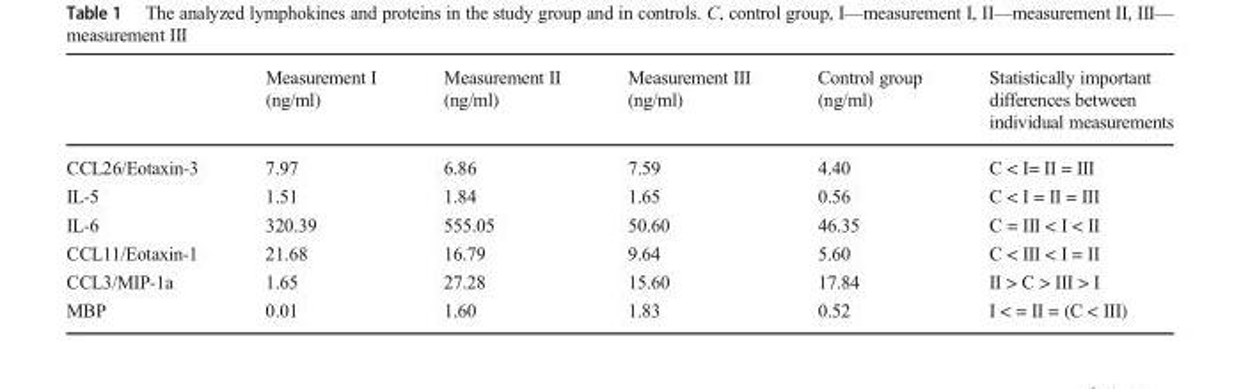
<table><thead><tr><td></td><td>Measurement I (ng/ml)</td><td>Measurement II (ng/ml)</td><td>Measurement III (ng/ml)</td><td>Control group (ng/ml)</td><td>Statistically important differences between individual measurements</td></tr></thead><tbody><tr><td>CCL26/Eotaxin-3</td><td>7.97</td><td>6.86</td><td>7.59</td><td>4.40</td><td>C &lt; I= II = III</td></tr><tr><td>IL-5</td><td>1.51</td><td>1.84</td><td>1.65</td><td>0.56</td><td>C &lt; I = II = III</td></tr><tr><td>IL-6</td><td>320.39</td><td>555.05</td><td>50.60</td><td>46.35</td><td>C = III &lt; I &lt; II</td></tr><tr><td>CCL11/Eotaxin-1</td><td>21.68</td><td>16.79</td><td>9.64</td><td>5.60</td><td>C &lt; III &lt; I = II</td></tr><tr><td>CCL3/MIP-1a</td><td>1.65</td><td>27.28</td><td>15.60</td><td>17.84</td><td>II &gt; C &gt; III &gt; I</td></tr><tr><td>MBP</td><td>0.01</td><td>1.60</td><td>1.83</td><td>0.52</td><td>I &lt; = II = (C &lt; III)</td></tr></tbody></table>